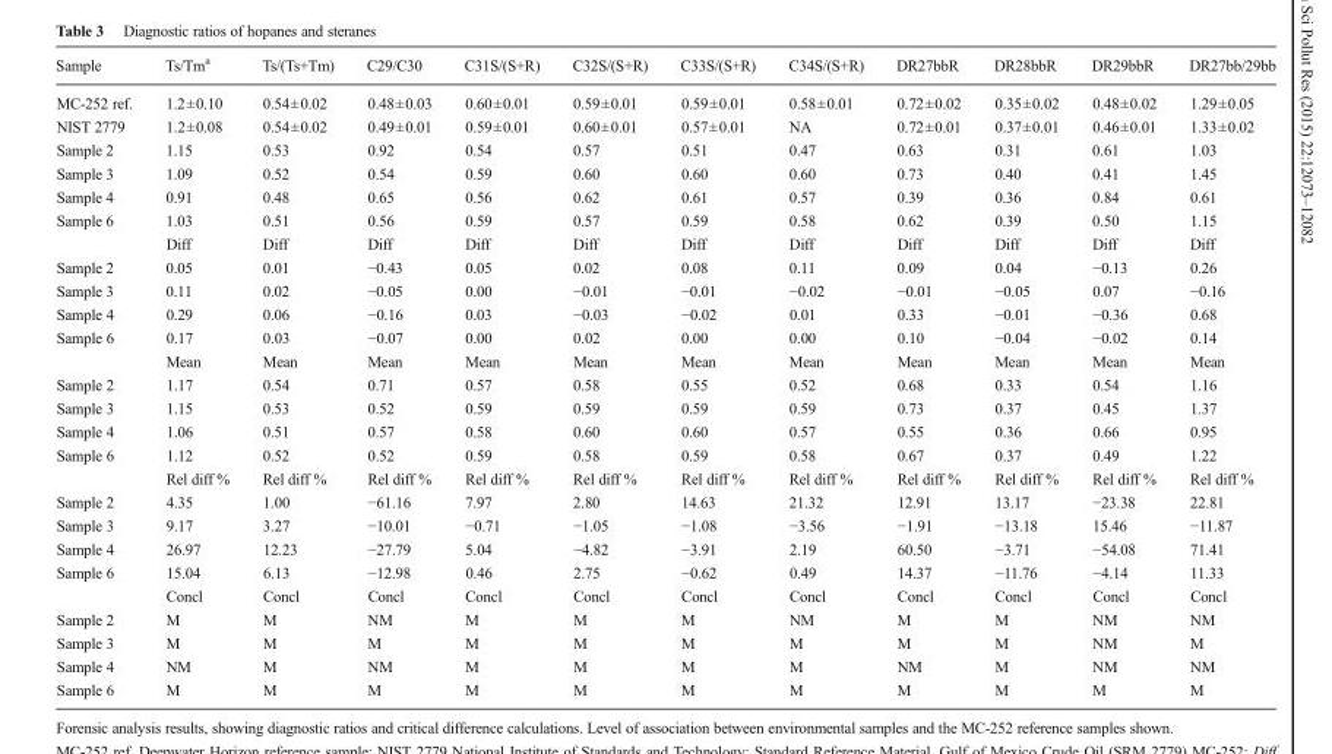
<table><thead><tr><td>Sample</td><td>Ts/Tm<sup>a</sup></td><td>Ts/(Ts+Tm)</td><td>C29/C30</td><td>C31S/(S+R)</td><td>C32S/(S+R)</td><td>C33S/(S+R)</td><td>C34S/(S+R)</td><td>DR27bbR</td><td>DR28bbR</td><td>DR29bbR</td><td>DR27bb/29bb</td></tr></thead><tbody><tr><td>MC-252 ref.</td><td>1.2±0.10</td><td>0.54±0.02</td><td>0.48±0.03</td><td>0.60±0.01</td><td>0.59±0.01</td><td>0.59±0.01</td><td>0.58±0.01</td><td>0.72±0.02</td><td>0.35±0.02</td><td>0.48±0.02</td><td>1.29±0.05</td></tr><tr><td>NIST 2779</td><td>1.2±0.08</td><td>0.54±0.02</td><td>0.49±0.01</td><td>0.59±0.01</td><td>0.60±0.01</td><td>0.57±0.01</td><td>NA</td><td>0.72±0.01</td><td>0.37±0.01</td><td>0.46±0.01</td><td>1.33±0.02</td></tr><tr><td>Sample 2</td><td>1.15</td><td>0.53</td><td>0.92</td><td>0.54</td><td>0.57</td><td>0.51</td><td>0.47</td><td>0.63</td><td>0.31</td><td>0.61</td><td>1.03</td></tr><tr><td>Sample 3</td><td>1.09</td><td>0.52</td><td>0.54</td><td>0.59</td><td>0.60</td><td>0.60</td><td>0.60</td><td>0.73</td><td>0.40</td><td>0.41</td><td>1.45</td></tr><tr><td>Sample 4</td><td>0.91</td><td>0.48</td><td>0.65</td><td>0.56</td><td>0.62</td><td>0.61</td><td>0.57</td><td>0.39</td><td>0.36</td><td>0.84</td><td>0.61</td></tr><tr><td rowspan="2">Sample 6</td><td>1.03</td><td>0.51</td><td>0.56</td><td>0.59</td><td>0.57</td><td>0.59</td><td>0.58</td><td>0.62</td><td>0.39</td><td>0.50</td><td>1.15</td></tr><tr><td>Diff</td><td>Diff</td><td>Diff</td><td>Diff</td><td>Diff</td><td>Diff</td><td>Diff</td><td>Diff</td><td>Diff</td><td>Diff</td><td>Diff</td></tr><tr><td>Sample 2</td><td>0.05</td><td>0.01</td><td>−0.43</td><td>0.05</td><td>0.02</td><td>0.08</td><td>0.11</td><td>0.09</td><td>0.04</td><td>−0.13</td><td>0.26</td></tr><tr><td>Sample 3</td><td>0.11</td><td>0.02</td><td>−0.05</td><td>0.00</td><td>−0.01</td><td>−0.01</td><td>−0.02</td><td>−0.01</td><td>−0.05</td><td>0.07</td><td>−0.16</td></tr><tr><td>Sample 4</td><td>0.29</td><td>0.06</td><td>−0.16</td><td>0.03</td><td>−0.03</td><td>−0.02</td><td>0.01</td><td>0.33</td><td>−0.01</td><td>−0.36</td><td>0.68</td></tr><tr><td rowspan="2">Sample 6</td><td>0.17</td><td>0.03</td><td>−0.07</td><td>0.00</td><td>0.02</td><td>0.00</td><td>0.00</td><td>0.10</td><td>−0.04</td><td>−0.02</td><td>0.14</td></tr><tr><td>Mean</td><td>Mean</td><td>Mean</td><td>Mean</td><td>Mean</td><td>Mean</td><td>Mean</td><td>Mean</td><td>Mean</td><td>Mean</td><td>Mean</td></tr><tr><td>Sample 2</td><td>1.17</td><td>0.54</td><td>0.71</td><td>0.57</td><td>0.58</td><td>0.55</td><td>0.52</td><td>0.68</td><td>0.33</td><td>0.54</td><td>1.16</td></tr><tr><td>Sample 3</td><td>1.15</td><td>0.53</td><td>0.52</td><td>0.59</td><td>0.59</td><td>0.59</td><td>0.59</td><td>0.73</td><td>0.37</td><td>0.45</td><td>1.37</td></tr><tr><td>Sample 4</td><td>1.06</td><td>0.51</td><td>0.57</td><td>0.58</td><td>0.60</td><td>0.60</td><td>0.57</td><td>0.55</td><td>0.36</td><td>0.66</td><td>0.95</td></tr><tr><td rowspan="2">Sample 6</td><td>1.12</td><td>0.52</td><td>0.52</td><td>0.59</td><td>0.58</td><td>0.59</td><td>0.58</td><td>0.67</td><td>0.37</td><td>0.49</td><td>1.22</td></tr><tr><td>Rel diff %</td><td>Rel diff %</td><td>Rel diff %</td><td>Rel diff %</td><td>Rel diff %</td><td>Rel diff %</td><td>Rel diff %</td><td>Rel diff %</td><td>Rel diff %</td><td>Rel diff %</td><td>Rel diff %</td></tr><tr><td>Sample 2</td><td>4.35</td><td>1.00</td><td>−61.16</td><td>7.97</td><td>2.80</td><td>14.63</td><td>21.32</td><td>12.91</td><td>13.17</td><td>−23.38</td><td>22.81</td></tr><tr><td>Sample 3</td><td>9.17</td><td>3.27</td><td>−10.01</td><td>−0.71</td><td>−1.05</td><td>−1.08</td><td>−3.56</td><td>−1.91</td><td>−13.18</td><td>15.46</td><td>−11.87</td></tr><tr><td>Sample 4</td><td>26.97</td><td>12.23</td><td>−27.79</td><td>5.04</td><td>−4.82</td><td>−3.91</td><td>2.19</td><td>60.50</td><td>−3.71</td><td>−54.08</td><td>71.41</td></tr><tr><td rowspan="2">Sample 6</td><td>15.04</td><td>6.13</td><td>−12.98</td><td>0.46</td><td>2.75</td><td>−0.62</td><td>0.49</td><td>14.37</td><td>−11.76</td><td>−4.14</td><td>11.33</td></tr><tr><td>Concl</td><td>Concl</td><td>Concl</td><td>Concl</td><td>Concl</td><td>Concl</td><td>Concl</td><td>Concl</td><td>Concl</td><td>Concl</td><td>Concl</td></tr><tr><td>Sample 2</td><td>M</td><td>M</td><td>NM</td><td>M</td><td>M</td><td>M</td><td>NM</td><td>M</td><td>M</td><td>NM</td><td>NM</td></tr><tr><td>Sample 3</td><td>M</td><td>M</td><td>M</td><td>M</td><td>M</td><td>M</td><td>M</td><td>M</td><td>M</td><td>NM</td><td>M</td></tr><tr><td>Sample 4</td><td>NM</td><td>M</td><td>NM</td><td>M</td><td>M</td><td>M</td><td>M</td><td>NM</td><td>M</td><td>NM</td><td>NM</td></tr><tr><td>Sample 6</td><td>M</td><td>M</td><td>M</td><td>M</td><td>M</td><td>M</td><td>M</td><td>M</td><td>M</td><td>M</td><td>M</td></tr></tbody></table>